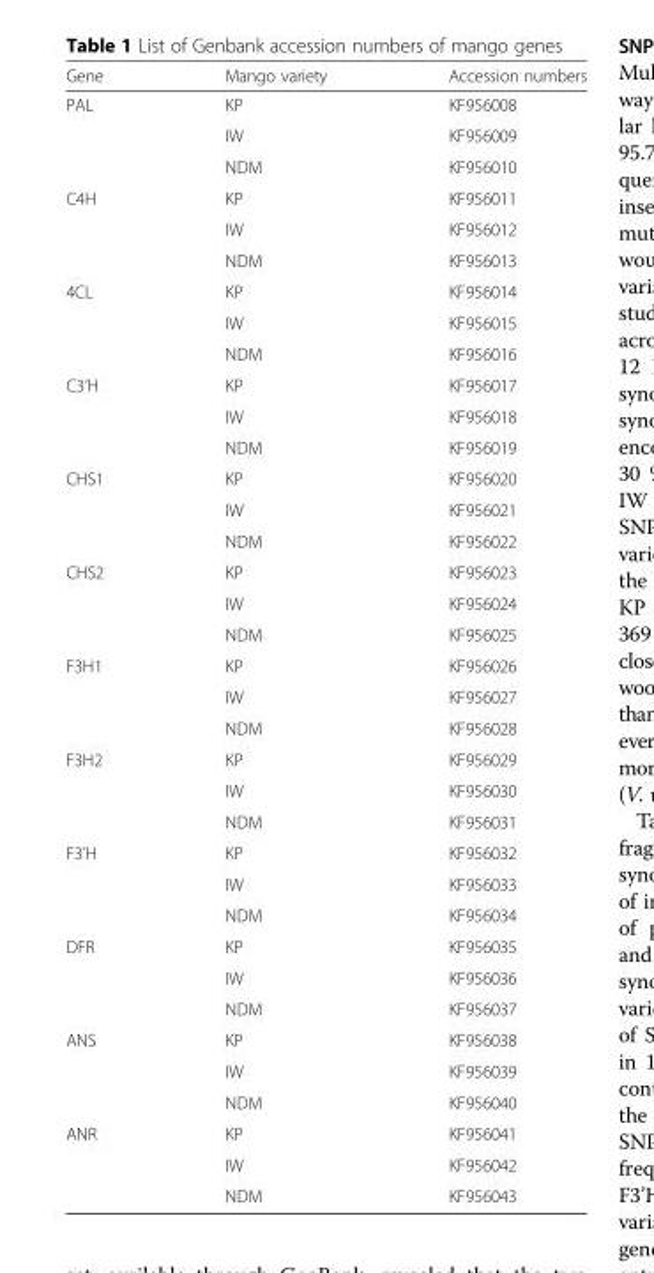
<table><thead><tr><td>Gene</td><td>Mango variety</td><td>Accession numbers</td></tr></thead><tbody><tr><td rowspan="3">PAL</td><td>KP</td><td>KF956008</td></tr><tr><td>IW</td><td>KF956009</td></tr><tr><td>NDM</td><td>KF956010</td></tr><tr><td rowspan="3">C4H</td><td>KP</td><td>KF956011</td></tr><tr><td>IW</td><td>KF956012</td></tr><tr><td>NDM</td><td>KF956013</td></tr><tr><td rowspan="3">4CL</td><td>KP</td><td>KF956014</td></tr><tr><td>IW</td><td>KF956015</td></tr><tr><td>NDM</td><td>KF956016</td></tr><tr><td rowspan="3">C3’H</td><td>KP</td><td>KF956017</td></tr><tr><td>IW</td><td>KF956018</td></tr><tr><td>NDM</td><td>KF956019</td></tr><tr><td rowspan="3">CHS1</td><td>KP</td><td>KF956020</td></tr><tr><td>IW</td><td>KF956021</td></tr><tr><td>NDM</td><td>KF956022</td></tr><tr><td rowspan="3">CHS2</td><td>KP</td><td>KF956023</td></tr><tr><td>IW</td><td>KF956024</td></tr><tr><td>NDM</td><td>KF956025</td></tr><tr><td rowspan="3">F3H1</td><td>KP</td><td>KF956026</td></tr><tr><td>IW</td><td>KF956027</td></tr><tr><td>NDM</td><td>KF956028</td></tr><tr><td rowspan="3">F3H2</td><td>KP</td><td>KF956029</td></tr><tr><td>IW</td><td>KF956030</td></tr><tr><td>NDM</td><td>KF956031</td></tr><tr><td rowspan="3">F3’H</td><td>KP</td><td>KF956032</td></tr><tr><td>IW</td><td>KF956033</td></tr><tr><td>NDM</td><td>KF956034</td></tr><tr><td rowspan="3">DFR</td><td>KP</td><td>KF956035</td></tr><tr><td>IW</td><td>KF956036</td></tr><tr><td>NDM</td><td>KF956037</td></tr><tr><td rowspan="3">ANS</td><td>KP</td><td>KF956038</td></tr><tr><td>IW</td><td>KF956039</td></tr><tr><td>NDM</td><td>KF956040</td></tr><tr><td rowspan="3">ANR</td><td>KP</td><td>KF956041</td></tr><tr><td>IW</td><td>KF956042</td></tr><tr><td>NDM</td><td>KF956043</td></tr></tbody></table>